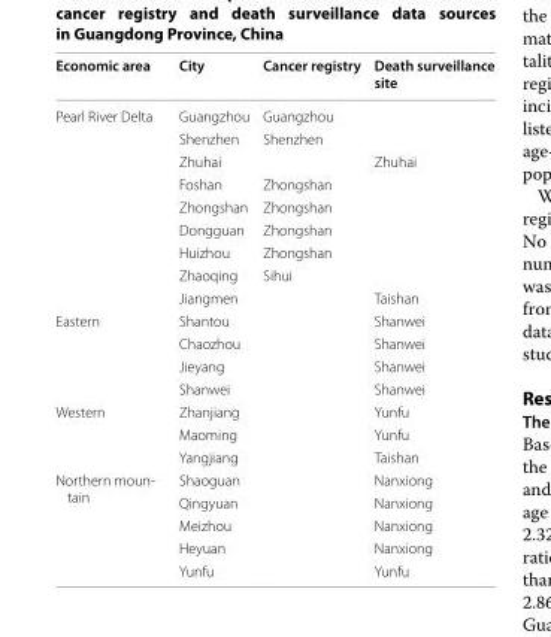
<table><thead><tr><td>Economic area</td><td>City</td><td>Cancer registry</td><td>Death surveillance site</td></tr></thead><tbody><tr><td rowspan="9">Pearl River Delta</td><td>Guangzhou</td><td>Guangzhou</td><td></td></tr><tr><td>Shenzhen</td><td>Shenzhen</td><td></td></tr><tr><td>Zhuhai</td><td></td><td>Zhuhai</td></tr><tr><td>Foshan</td><td>Zhongshan</td><td></td></tr><tr><td>Zhongshan</td><td>Zhongshan</td><td></td></tr><tr><td>Dongguan</td><td>Zhongshan</td><td></td></tr><tr><td>Huizhou</td><td>Zhongshan</td><td></td></tr><tr><td>Zhaoqing</td><td>Sihui</td><td></td></tr><tr><td>Jiangmen</td><td></td><td>Taishan</td></tr><tr><td rowspan="4">Eastern</td><td>Shantou</td><td></td><td>Shanwei</td></tr><tr><td>Chaozhou</td><td></td><td>Shanwei</td></tr><tr><td>Jieyang</td><td></td><td>Shanwei</td></tr><tr><td>Shanwei</td><td></td><td>Shanwei</td></tr><tr><td rowspan="3">Western</td><td colspan="2">Zhanjiang</td><td>Yunfu</td></tr><tr><td>Maoming</td><td></td><td>Yunfu</td></tr><tr><td colspan="2">Yangjiang</td><td>Taishan</td></tr><tr><td rowspan="5">Northern moun‑ tain</td><td>Shaoguan</td><td></td><td>Nanxiong</td></tr><tr><td>Qingyuan</td><td></td><td>Nanxiong</td></tr><tr><td>Meizhou</td><td></td><td>Nanxiong</td></tr><tr><td>Heyuan</td><td></td><td>Nanxiong</td></tr><tr><td>Yunfu</td><td></td><td>Yunfu</td></tr></tbody></table>